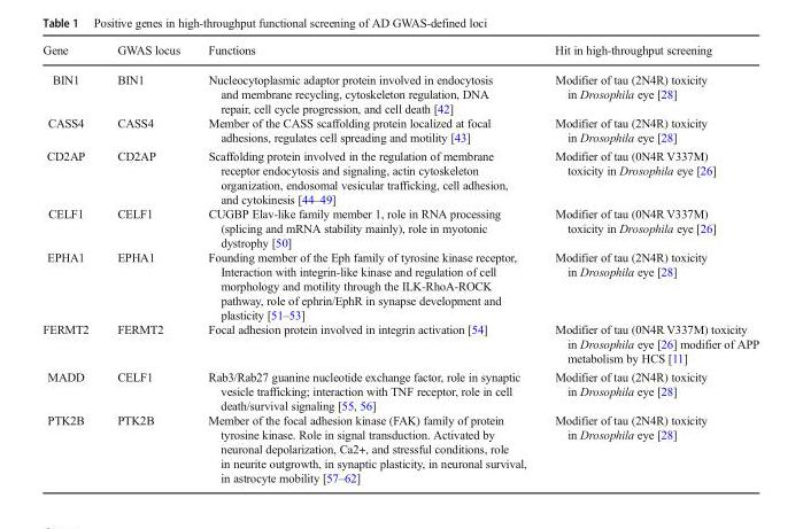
<table><thead><tr><td>Gene</td><td>GWAS locus</td><td>Functions</td><td>Hit in high-throughput screening</td></tr></thead><tbody><tr><td>BIN1</td><td>BIN1</td><td>Nucleocytoplasmic adaptor protein involved in endocytosis and membrane recycling, cytoskeleton regulation, DNA repair, cell cycle progression, and cell death [42]</td><td>Modifier of tau (2N4R) toxicity in Drosophila eye [28]</td></tr><tr><td>CASS4</td><td>CASS4</td><td>Member of the CASS scaffolding protein localized at focal adhesions, regulates cell spreading and motility [43]</td><td>Modifier of tau (2N4R) toxicity in Drosophila eye [28]</td></tr><tr><td>CD2AP</td><td>CD2AP</td><td>Scaffolding protein involved in the regulation of membrane receptor endocytosis and signaling, actin cytoskeleton organization, endosomal vesicular trafficking, cell adhesion, and cytokinesis [44–49]</td><td>Modifier of tau (0N4R V337M) toxicity in Drosophila eye [26]</td></tr><tr><td>CELF1</td><td>CELF1</td><td>CUGBP Elav-like family member 1, role in RNA processing (splicing and mRNA stability mainly), role in myotonic dystrophy [50]</td><td>Modifier of tau (0N4R V337M) toxicity in Drosophila eye [26]</td></tr><tr><td>EPHA1</td><td>EPHA1</td><td>Founding member of the Eph family of tyrosine kinase receptor, Interaction with integrin-like kinase and regulation of cell morphology and motility through the ILK-RhoA-ROCK pathway, role of ephrin/EphR in synapse development and plasticity [51–53]</td><td>Modifier of tau (2N4R) toxicity in Drosophila eye [28]</td></tr><tr><td>FERMT2</td><td>FERMT2</td><td>Focal adhesion protein involved in integrin activation [54]</td><td>Modifier of tau (0N4R V337M) toxicity in Drosophila eye [26] modifier of APP metabolism by HCS [11]</td></tr><tr><td>MADD</td><td>CELF1</td><td>Rab3/Rab27 guanine nucleotide exchange factor, role in synaptic vesicle trafficking; interaction with TNF receptor, role in cell death/survival signaling [55, 56]</td><td>Modifier of tau (2N4R) toxicity in Drosophila eye [28]</td></tr><tr><td>PTK2B</td><td>PTK2B</td><td>Member of the focal adhesion kinase (FAK) family of protein tyrosine kinase. Role in signal transduction. Activated by neuronal depolarization, Ca2+, and stressful conditions, role in neurite outgrowth, in synaptic plasticity, in neuronal survival, in astrocyte mobility [57–62]</td><td>Modifier of tau (2N4R) toxicity in Drosophila eye [28]</td></tr></tbody></table>